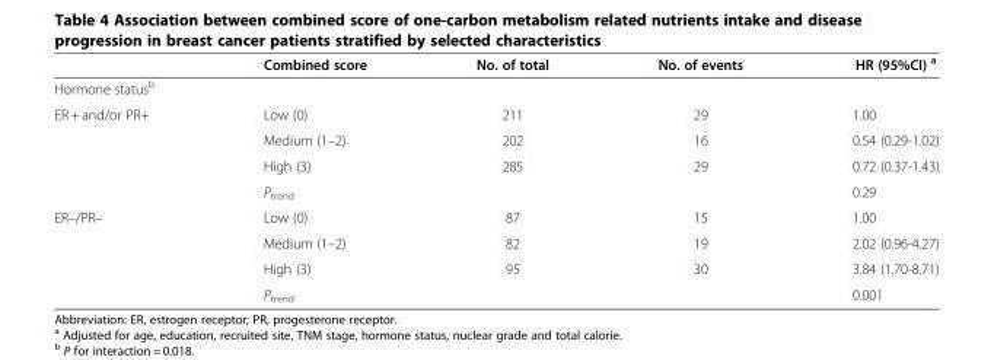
<table><thead><tr><td></td><td>Combined score</td><td>No. of total</td><td>No. of events</td><td>HR (95%CI) <sup>a</sup></td></tr></thead><tbody><tr><td colspan="5">Hormone status<sup>b</sup></td></tr><tr><td rowspan="4">ER + and/or PR+</td><td>Low (0)</td><td>211</td><td>29</td><td>1.00</td></tr><tr><td>Medium (1–2)</td><td>202</td><td>16</td><td>0.54 (0.29-1.02)</td></tr><tr><td>High (3)</td><td>285</td><td>29</td><td>0.72 (0.37-1.43)</td></tr><tr><td>P<sub>trend</sub></td><td></td><td></td><td>0.29</td></tr><tr><td rowspan="4">ER–/PR–</td><td>Low (0)</td><td>87</td><td>15</td><td>1.00</td></tr><tr><td>Medium (1–2)</td><td>82</td><td>19</td><td>2.02 (0.96-4.27)</td></tr><tr><td>High (3)</td><td>95</td><td>30</td><td>3.84 (1.70-8.71)</td></tr><tr><td>P<sub>trend</sub></td><td></td><td></td><td>0.001</td></tr></tbody></table>